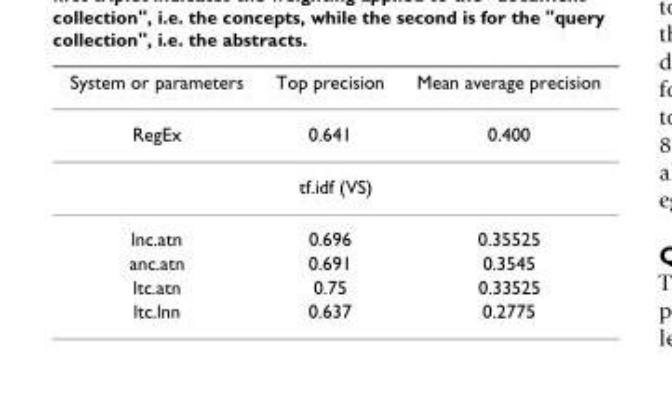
<table><thead><tr><td>System or parameters</td><td>Top precision</td><td>Mean average precision</td></tr></thead><tbody><tr><td>RegEx</td><td>0.641</td><td>0.400</td></tr><tr><td colspan="3">tf.idf (VS)</td></tr><tr><td>lnc.atn</td><td>0.696</td><td>0.35525</td></tr><tr><td>anc.atn</td><td>0.691</td><td>0.3545</td></tr><tr><td>ltc.atn</td><td>0.75</td><td>0.33525</td></tr><tr><td>ltc.lnn</td><td>0.637</td><td>0.2775</td></tr></tbody></table>